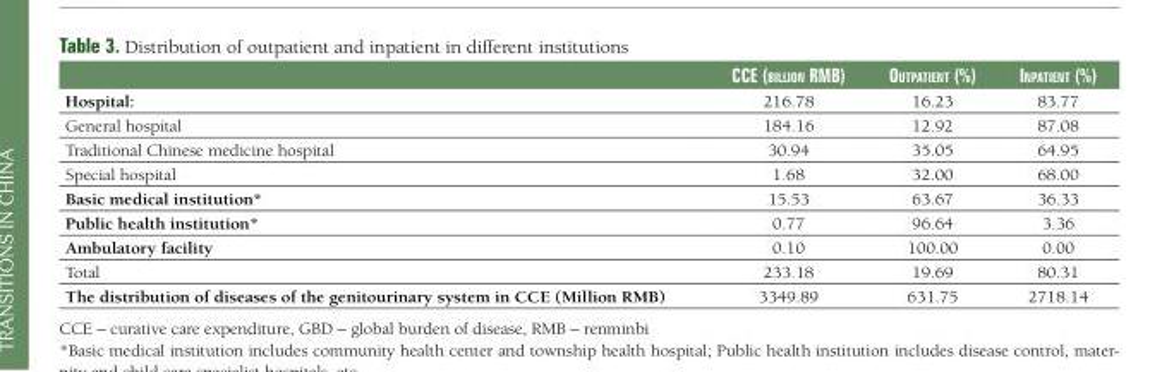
<table><thead><tr><td></td><td>CCe (billion rmb)</td><td>ouTpaTienT (%)</td><td>inpaTienT (%)</td></tr></thead><tbody><tr><td>Hospital:</td><td>216.78</td><td>16.23</td><td>83.77</td></tr><tr><td>General hospital</td><td>184.16</td><td>12.92</td><td>87.08</td></tr><tr><td>Traditional Chinese medicine hospital</td><td>30.94</td><td>35.05</td><td>64.95</td></tr><tr><td>Special hospital</td><td>1.68</td><td>32.00</td><td>68.00</td></tr><tr><td>Basic medical institution*</td><td>15.53</td><td>63.67</td><td>36.33</td></tr><tr><td>Public health institution*</td><td>0.77</td><td>96.64</td><td>3.36</td></tr><tr><td>Ambulatory facility</td><td>0.10</td><td>100.00</td><td>0.00</td></tr><tr><td>Total</td><td>233.18</td><td>19.69</td><td>80.31</td></tr><tr><td>The distribution of diseases of the genitourinary system in CCE (Million RMB)</td><td>3349.89</td><td>631.75</td><td>2718.14</td></tr></tbody></table>